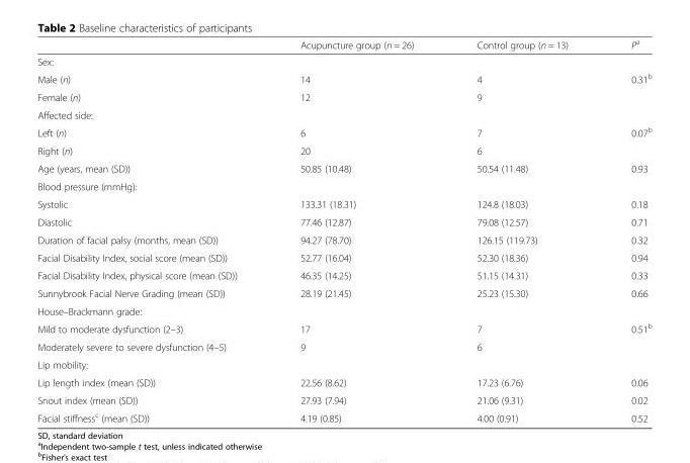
<table><thead><tr><td></td><td>Acupuncture group (n = 26)</td><td>Control group (n = 13)</td><td>P<sup>a</sup></td></tr></thead><tbody><tr><td colspan="4">Sex:</td></tr><tr><td>Male (n)</td><td>14</td><td>4</td><td rowspan="2">0.31<sup>b</sup></td></tr><tr><td>Female (n)</td><td>12</td><td>9</td></tr><tr><td colspan="4">Affected side:</td></tr><tr><td>Left (n)</td><td>6</td><td>7</td><td rowspan="2">0.07<sup>b</sup></td></tr><tr><td>Right (n)</td><td>20</td><td>6</td></tr><tr><td>Age (years, mean (SD))</td><td>50.85 (10.48)</td><td>50.54 (11.48)</td><td>0.93</td></tr><tr><td colspan="4">Blood pressure (mmHg):</td></tr><tr><td>Systolic</td><td>133.31 (18.31)</td><td>124.8 (18.03)</td><td>0.18</td></tr><tr><td>Diastolic</td><td>77.46 (12.87)</td><td>79.08 (12.57)</td><td>0.71</td></tr><tr><td>Duration of facial palsy (months, mean (SD))</td><td>94.27 (78.70)</td><td>126.15 (119.73)</td><td>0.32</td></tr><tr><td>Facial Disability Index, social score (mean (SD))</td><td>52.77 (16.04)</td><td>52.30 (18.36)</td><td>0.94</td></tr><tr><td>Facial Disability Index, physical score (mean (SD))</td><td>46.35 (14.25)</td><td>51.15 (14.31)</td><td>0.33</td></tr><tr><td>Sunnybrook Facial Nerve Grading (mean (SD))</td><td>28.19 (21.45)</td><td>25.23 (15.30)</td><td>0.66</td></tr><tr><td colspan="4">House–Brackmann grade:</td></tr><tr><td>Mild to moderate dysfunction (2–3)</td><td>17</td><td>7</td><td rowspan="2">0.51<sup>b</sup></td></tr><tr><td>Moderately severe to severe dysfunction (4–5)</td><td>9</td><td>6</td></tr><tr><td colspan="4">Lip mobility:</td></tr><tr><td>Lip length index (mean (SD))</td><td>22.56 (8.62)</td><td>17.23 (6.76)</td><td>0.06</td></tr><tr><td>Snout index (mean (SD))</td><td>27.93 (7.94)</td><td>21.06 (9.31)</td><td>0.02</td></tr><tr><td>Facial stiffness<sup>c</sup> (mean (SD))</td><td>4.19 (0.85)</td><td>4.00 (0.91)</td><td>0.52</td></tr></tbody></table>